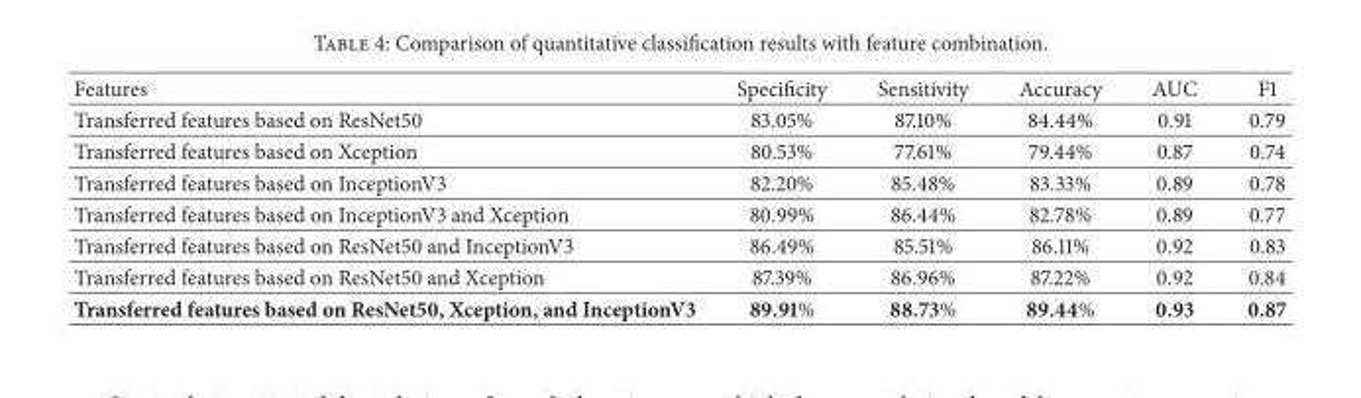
<table><thead><tr><td>Features</td><td>Specificity</td><td>Sensitivity</td><td>Accuracy</td><td>AUC</td><td>F1</td></tr></thead><tbody><tr><td>Transferred features based on ResNet50</td><td>83.05%</td><td>87.10%</td><td>84.44%</td><td>0.91</td><td>0.79</td></tr><tr><td>Transferred features based on Xception</td><td>80.53%</td><td>77.61%</td><td>79.44%</td><td>0.87</td><td>0.74</td></tr><tr><td>Transferred features based on InceptionV3</td><td>82.20%</td><td>85.48%</td><td>83.33%</td><td>0.89</td><td>0.78</td></tr><tr><td>Transferred features based on InceptionV3 and Xception</td><td>80.99%</td><td>86.44%</td><td>82.78%</td><td>0.89</td><td>0.77</td></tr><tr><td>Transferred features based on ResNet50 and InceptionV3</td><td>86.49%</td><td>85.51%</td><td>86.11%</td><td>0.92</td><td>0.83</td></tr><tr><td>Transferred features based on ResNet50 and Xception</td><td>87.39%</td><td>86.96%</td><td>87.22%</td><td>0.92</td><td>0.84</td></tr><tr><td>Transferred features based on ResNet50, Xception, and InceptionV3</td><td>89.91%</td><td>88.73%</td><td>89.44%</td><td>0.93</td><td>0.87</td></tr></tbody></table>